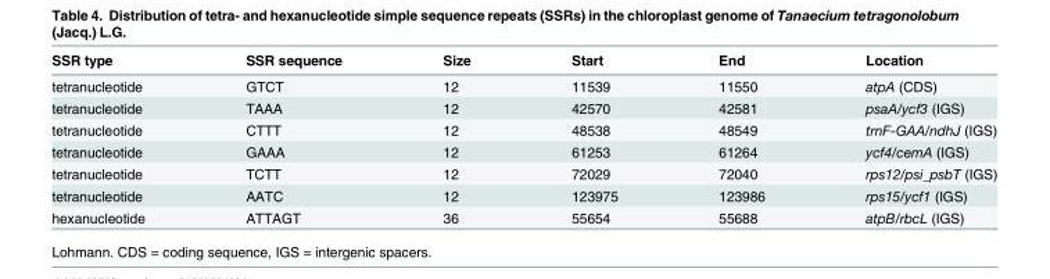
<table><thead><tr><td>SSR type</td><td>SSR sequence</td><td>Size</td><td>Start</td><td>End</td><td>Location</td></tr></thead><tbody><tr><td>tetranucleotide</td><td>GTCT</td><td>12</td><td>11539</td><td>11550</td><td>atpA (CDS)</td></tr><tr><td>tetranucleotide</td><td>TAAA</td><td>12</td><td>42570</td><td>42581</td><td>psaA/ycf3 (IGS)</td></tr><tr><td>tetranucleotide</td><td>CTTT</td><td>12</td><td>48538</td><td>48549</td><td>trnF-GAA/ndhJ (IGS)</td></tr><tr><td>tetranucleotide</td><td>GAAA</td><td>12</td><td>61253</td><td>61264</td><td>ycf4/cemA (IGS)</td></tr><tr><td>tetranucleotide</td><td>TCTT</td><td>12</td><td>72029</td><td>72040</td><td>rps12/psi_psbT (IGS)</td></tr><tr><td>tetranucleotide</td><td>AATC</td><td>12</td><td>123975</td><td>123986</td><td>rps15/ycf1 (IGS)</td></tr><tr><td>hexanucleotide</td><td>ATTAGT</td><td>36</td><td>55654</td><td>55688</td><td>atpB/rbcL (IGS)</td></tr></tbody></table>